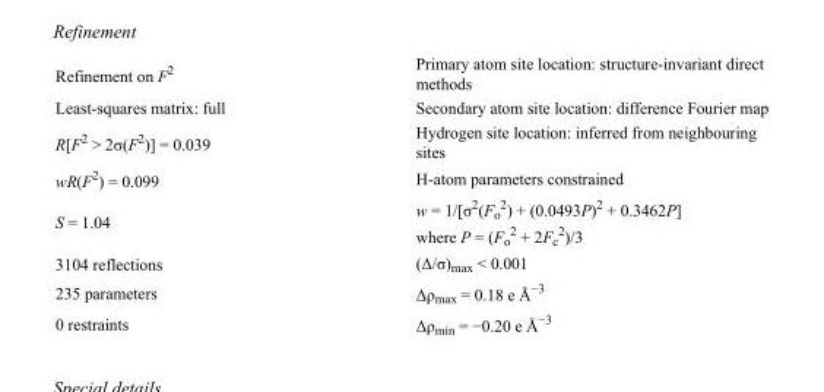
<table><tbody><tr><td>Refinement on F<sup>2</sup></td><td>Primary atom site location: structure-invariant direct methods</td></tr><tr><td>Least-squares matrix: full</td><td>Secondary atom site location: difference Fourier map</td></tr><tr><td>R[F<sup>2</sup> &gt; 2σ(F<sup>2</sup>)] = 0.039</td><td>Hydrogen site location: inferred from neighbouring sites</td></tr><tr><td>wR(F<sup>2</sup>) = 0.099</td><td>H-atom parameters constrained</td></tr><tr><td>S = 1.04</td><td>w = 1/[σ<sup>2</sup>(F<sub>o</sub> <sup>2</sup>) + (0.0493P)<sup>2</sup> + 0.3462P] where P = (F<sub>o</sub> <sup>2</sup> + 2F<sub>c</sub> <sup>2</sup>)/3</td></tr><tr><td>3104 reflections</td><td>(Δ/σ)<sub>max</sub> &lt; 0.001</td></tr><tr><td>235 parameters</td><td>Δρ<sub>max</sub> = 0.18 e Å<sup>−3</sup></td></tr><tr><td>0 restraints</td><td>Δρ<sub>min</sub> = −0.20 e Å<sup>−3</sup></td></tr></tbody></table>